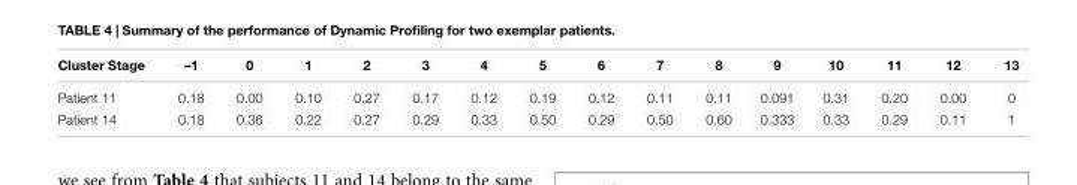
<table><thead><tr><td>Cluster Stage</td><td>–1</td><td>0</td><td>1</td><td>2</td><td>3</td><td>4</td><td>5</td><td>6</td><td>7</td><td>8</td><td>9</td><td>10</td><td>11</td><td>12</td><td>13</td></tr></thead><tbody><tr><td>Patient 11</td><td>0.18</td><td>0.00</td><td>0.10</td><td>0.27</td><td>0.17</td><td>0.12</td><td>0.19</td><td>0.12</td><td>0.11</td><td>0.11</td><td>0.091</td><td>0.31</td><td>0.20</td><td>0.00</td><td>0</td></tr><tr><td>Patient 14</td><td>0.18</td><td>0.36</td><td>0.22</td><td>0.27</td><td>0.29</td><td>0.33</td><td>0.50</td><td>0.29</td><td>0.50</td><td>0.60</td><td>0.333</td><td>0.33</td><td>0.29</td><td>0.11</td><td>1</td></tr></tbody></table>